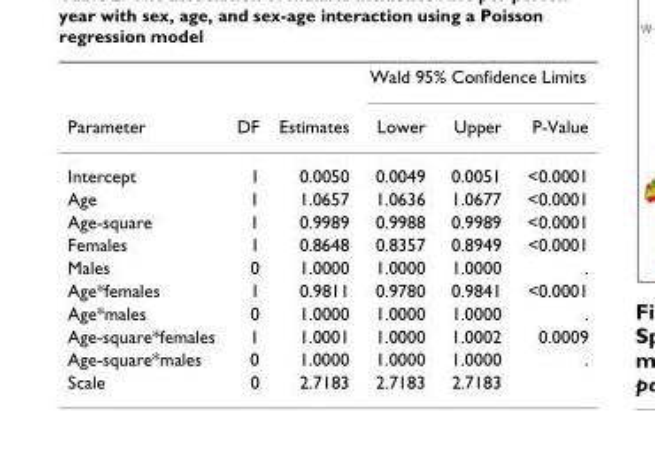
<table><thead><tr><td rowspan="2">Parameter</td><td rowspan="2">DF</td><td rowspan="2">Estimates</td><td colspan="3">Wald 95% Confidence Limits</td></tr><tr><td>Lower</td><td>Upper</td><td>P-Value</td></tr></thead><tbody><tr><td>Intercept</td><td>1</td><td>0.0050</td><td>0.0049</td><td>0.0051</td><td>&lt;0.0001</td></tr><tr><td>Age</td><td>1</td><td>1.0657</td><td>1.0636</td><td>1.0677</td><td>&lt;0.0001</td></tr><tr><td>Age-square</td><td>1</td><td>0.9989</td><td>0.9988</td><td>0.9989</td><td>&lt;0.0001</td></tr><tr><td>Females</td><td>1</td><td>0.8648</td><td>0.8357</td><td>0.8949</td><td>&lt;0.0001</td></tr><tr><td>Males</td><td>0</td><td>1.0000</td><td>1.0000</td><td>1.0000</td><td>.</td></tr><tr><td>Age*females</td><td>1</td><td>0.9811</td><td>0.9780</td><td>0.9841</td><td>&lt;0.0001</td></tr><tr><td>Age*males</td><td>0</td><td>1.0000</td><td>1.0000</td><td>1.0000</td><td>.</td></tr><tr><td>Age-square*females</td><td>1</td><td>1.0001</td><td>1.0000</td><td>1.0002</td><td>0.0009</td></tr><tr><td>Age-square*males</td><td>0</td><td>1.0000</td><td>1.0000</td><td>1.0000</td><td>.</td></tr><tr><td>Scale</td><td>0</td><td>2.7183</td><td>2.7183</td><td>2.7183</td><td></td></tr></tbody></table>